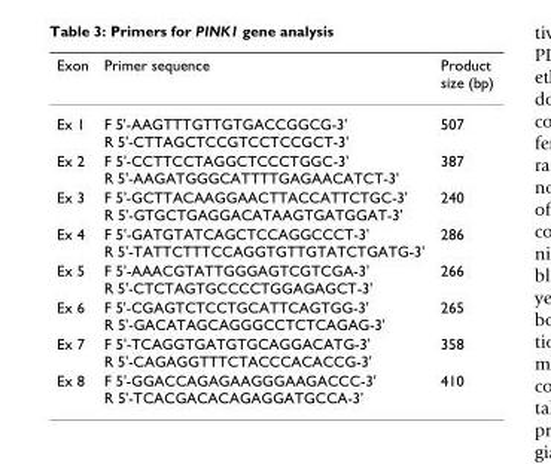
<table><thead><tr><td>Exon</td><td>Primer sequence</td><td>Product size (bp)</td></tr></thead><tbody><tr><td>Ex 1</td><td>F 5&#x27;-AAGTTTGTTGTGACCGGCG-3&#x27; R 5&#x27;-CTTAGCTCCGTCCTCCGCT-3&#x27;</td><td>507</td></tr><tr><td>Ex 2</td><td>F 5&#x27;-CCTTCCTAGGCTCCCTGGC-3&#x27; R 5&#x27;-AAGATGGGCATTTTGAGAACATCT-3&#x27;</td><td>387</td></tr><tr><td>Ex 3</td><td>F 5&#x27;-GCTTACAAGGAACTTACCATTCTGC-3&#x27; R 5&#x27;-GTGCTGAGGACATAAGTGATGGAT-3&#x27;</td><td>240</td></tr><tr><td>Ex 4</td><td>F 5&#x27;-GATGTATCAGCTCCAGGCCCT-3&#x27; R 5&#x27;-TATTCTTTCCAGGTGTTGTATCTGATG-3&#x27;</td><td>286</td></tr><tr><td>Ex 5</td><td>F 5&#x27;-AAACGTATTGGGAGTCGTCGA-3&#x27; R 5&#x27;-CTCTAGTGCCCCTGGAGAGCT-3&#x27;</td><td>266</td></tr><tr><td>Ex 6</td><td>F 5&#x27;-CGAGTCTCCTGCATTCAGTGG-3&#x27; R 5&#x27;-GACATAGCAGGGCCTCTCAGAG-3&#x27;</td><td>265</td></tr><tr><td>Ex 7</td><td>F 5&#x27;-TCAGGTGATGTGCAGGACATG-3&#x27; R 5&#x27;-CAGAGGTTTCTACCCACACCG-3&#x27;</td><td>358</td></tr><tr><td>Ex 8</td><td>F 5&#x27;-GGACCAGAGAAGGGAAGACCC-3&#x27; R 5&#x27;-TCACGACACAGAGGATGCCA-3&#x27;</td><td>410</td></tr></tbody></table>